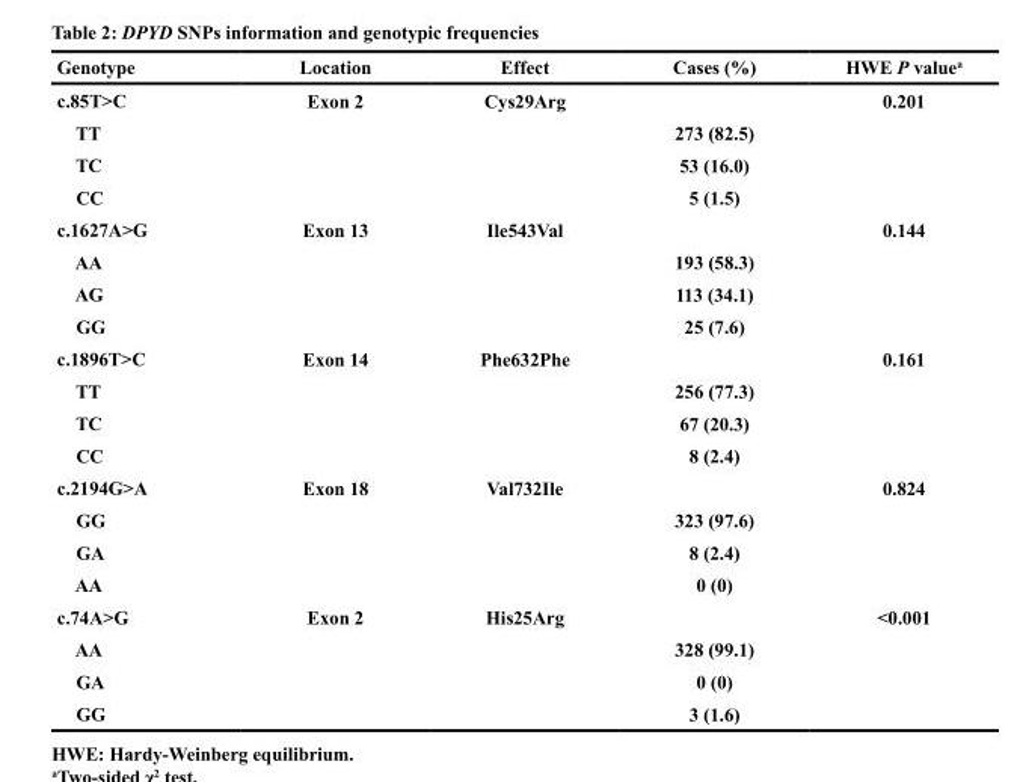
<table><thead><tr><td>Genotype</td><td>Location</td><td>Effect</td><td>Cases (%)</td><td>HWE P value<sup>a</sup></td></tr></thead><tbody><tr><td>c.85T&gt;C</td><td>Exon 2</td><td>Cys29Arg</td><td></td><td>0.201</td></tr><tr><td>TT</td><td></td><td></td><td>273 (82.5)</td><td></td></tr><tr><td>TC</td><td></td><td></td><td>53 (16.0)</td><td></td></tr><tr><td>CC</td><td></td><td></td><td>5 (1.5)</td><td></td></tr><tr><td>c.1627A&gt;G</td><td>Exon 13</td><td>Ile543Val</td><td></td><td>0.144</td></tr><tr><td>AA</td><td></td><td></td><td>193 (58.3)</td><td></td></tr><tr><td>AG</td><td></td><td></td><td>113 (34.1)</td><td></td></tr><tr><td>GG</td><td></td><td></td><td>25 (7.6)</td><td></td></tr><tr><td>c.1896T&gt;C</td><td>Exon 14</td><td>Phe632Phe</td><td></td><td>0.161</td></tr><tr><td>TT</td><td></td><td></td><td>256 (77.3)</td><td></td></tr><tr><td>TC</td><td></td><td></td><td>67 (20.3)</td><td></td></tr><tr><td>CC</td><td></td><td></td><td>8 (2.4)</td><td></td></tr><tr><td>c.2194G&gt;A</td><td>Exon 18</td><td>Val732Ile</td><td></td><td>0.824</td></tr><tr><td>GG</td><td></td><td></td><td>323 (97.6)</td><td></td></tr><tr><td>GA</td><td></td><td></td><td>8 (2.4)</td><td></td></tr><tr><td>AA</td><td></td><td></td><td>0 (0)</td><td></td></tr><tr><td>c.74A&gt;G</td><td>Exon 2</td><td>His25Arg</td><td></td><td>&lt;0.001</td></tr><tr><td>AA</td><td></td><td></td><td>328 (99.1)</td><td></td></tr><tr><td>GA</td><td></td><td></td><td>0 (0)</td><td></td></tr><tr><td>GG</td><td></td><td></td><td>3 (1.6)</td><td></td></tr></tbody></table>